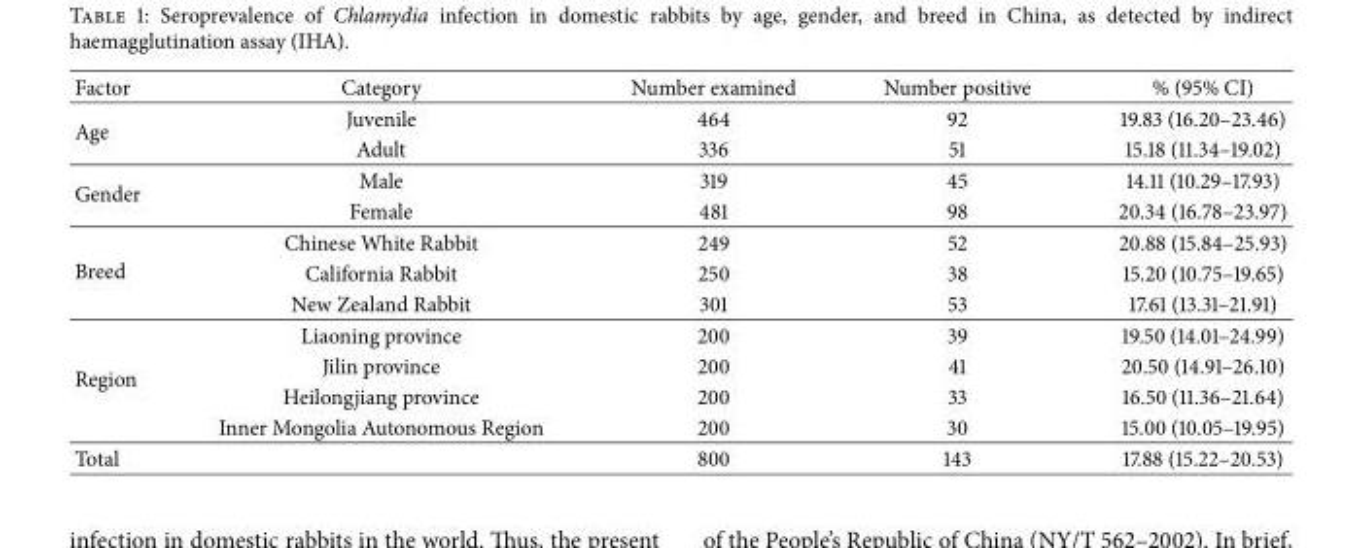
<table><tbody><tr><td>Factor</td><td>Category</td><td>Number examined</td><td>Number positive</td><td>% (95% CI)</td></tr><tr><td rowspan="2">Age</td><td>Juvenile</td><td>464</td><td>92</td><td>19.83 (16.20–23.46)</td></tr><tr><td>Adult</td><td>336</td><td>51</td><td>15.18 (11.34–19.02)</td></tr><tr><td rowspan="2">Gender</td><td>Male</td><td>319</td><td>45</td><td>14.11 (10.29–17.93)</td></tr><tr><td>Female</td><td>481</td><td>98</td><td>20.34 (16.78–23.97)</td></tr><tr><td rowspan="3">Breed</td><td>Chinese White Rabbit</td><td>249</td><td>52</td><td>20.88 (15.84–25.93)</td></tr><tr><td>California Rabbit</td><td>250</td><td>38</td><td>15.20 (10.75–19.65)</td></tr><tr><td>New Zealand Rabbit</td><td>301</td><td>53</td><td>17.61 (13.31–21.91)</td></tr><tr><td rowspan="4">Region</td><td>Liaoning province</td><td>200</td><td>39</td><td>19.50 (14.01–24.99)</td></tr><tr><td>Jilin province</td><td>200</td><td>41</td><td>20.50 (14.91–26.10)</td></tr><tr><td>Heilongjiang province</td><td>200</td><td>33</td><td>16.50 (11.36–21.64)</td></tr><tr><td>Inner Mongolia Autonomous Region</td><td>200</td><td>30</td><td>15.00 (10.05–19.95)</td></tr><tr><td>Total</td><td></td><td>800</td><td>143</td><td>17.88 (15.22–20.53)</td></tr></tbody></table>